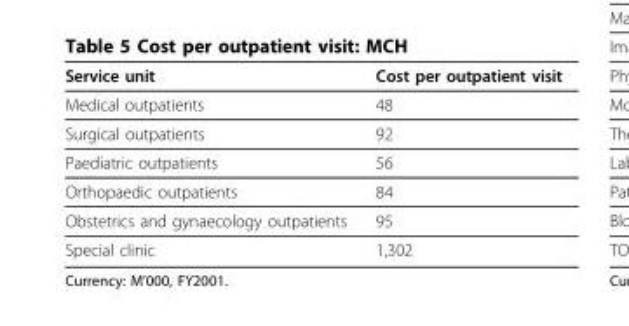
<table><thead><tr><td>Service unit</td><td>Cost per outpatient visit</td></tr></thead><tbody><tr><td>Medical outpatients</td><td>48</td></tr><tr><td>Surgical outpatients</td><td>92</td></tr><tr><td>Paediatric outpatients</td><td>56</td></tr><tr><td>Orthopaedic outpatients</td><td>84</td></tr><tr><td>Obstetrics and gynaecology outpatients</td><td>95</td></tr><tr><td>Special clinic</td><td>1,302</td></tr></tbody></table>